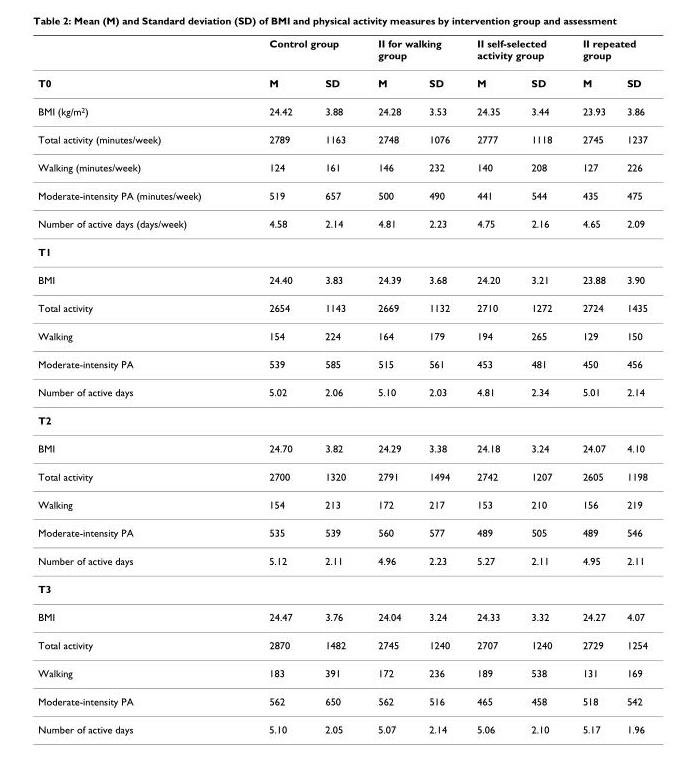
<table><thead><tr><td rowspan="2">T0</td><td colspan="2">Control group</td><td colspan="2">II for walking group</td><td colspan="2">II self-selected activity group</td><td colspan="2">II repeated group</td></tr><tr><td>M</td><td>SD</td><td>M</td><td>SD</td><td>M</td><td>SD</td><td>M</td><td>SD</td></tr></thead><tbody><tr><td>BMI (kg/m<sup>2</sup>)</td><td>24.42</td><td>3.88</td><td>24.28</td><td>3.53</td><td>24.35</td><td>3.44</td><td>23.93</td><td>3.86</td></tr><tr><td>Total activity (minutes/week)</td><td>2789</td><td>1163</td><td>2748</td><td>1076</td><td>2777</td><td>1118</td><td>2745</td><td>1237</td></tr><tr><td>Walking (minutes/week)</td><td>124</td><td>161</td><td>146</td><td>232</td><td>140</td><td>208</td><td>127</td><td>226</td></tr><tr><td>Moderate-intensity PA (minutes/week)</td><td>519</td><td>657</td><td>500</td><td>490</td><td>441</td><td>544</td><td>435</td><td>475</td></tr><tr><td>Number of active days (days/week)</td><td>4.58</td><td>2.14</td><td>4.81</td><td>2.23</td><td>4.75</td><td>2.16</td><td>4.65</td><td>2.09</td></tr><tr><td colspan="9">T1</td></tr><tr><td>BMI</td><td>24.40</td><td>3.83</td><td>24.39</td><td>3.68</td><td>24.20</td><td>3.21</td><td>23.88</td><td>3.90</td></tr><tr><td>Total activity</td><td>2654</td><td>1143</td><td>2669</td><td>1132</td><td>2710</td><td>1272</td><td>2724</td><td>1435</td></tr><tr><td>Walking</td><td>154</td><td>224</td><td>164</td><td>179</td><td>194</td><td>265</td><td>129</td><td>150</td></tr><tr><td>Moderate-intensity PA</td><td>539</td><td>585</td><td>515</td><td>561</td><td>453</td><td>481</td><td>450</td><td>456</td></tr><tr><td>Number of active days</td><td>5.02</td><td>2.06</td><td>5.10</td><td>2.03</td><td>4.81</td><td>2.34</td><td>5.01</td><td>2.14</td></tr><tr><td colspan="9">T2</td></tr><tr><td>BMI</td><td>24.70</td><td>3.82</td><td>24.29</td><td>3.38</td><td>24.18</td><td>3.24</td><td>24.07</td><td>4.10</td></tr><tr><td>Total activity</td><td>2700</td><td>1320</td><td>2791</td><td>1494</td><td>2742</td><td>1207</td><td>2605</td><td>1198</td></tr><tr><td>Walking</td><td>154</td><td>213</td><td>172</td><td>217</td><td>153</td><td>210</td><td>156</td><td>219</td></tr><tr><td>Moderate-intensity PA</td><td>535</td><td>539</td><td>560</td><td>577</td><td>489</td><td>505</td><td>489</td><td>546</td></tr><tr><td>Number of active days</td><td>5.12</td><td>2.11</td><td>4.96</td><td>2.23</td><td>5.27</td><td>2.11</td><td>4.95</td><td>2.11</td></tr><tr><td colspan="9">T3</td></tr><tr><td>BMI</td><td>24.47</td><td>3.76</td><td>24.04</td><td>3.24</td><td>24.33</td><td>3.32</td><td>24.27</td><td>4.07</td></tr><tr><td>Total activity</td><td>2870</td><td>1482</td><td>2745</td><td>1240</td><td>2707</td><td>1240</td><td>2729</td><td>1254</td></tr><tr><td>Walking</td><td>183</td><td>391</td><td>172</td><td>236</td><td>189</td><td>538</td><td>131</td><td>169</td></tr><tr><td>Moderate-intensity PA</td><td>562</td><td>650</td><td>562</td><td>516</td><td>465</td><td>458</td><td>518</td><td>542</td></tr><tr><td>Number of active days</td><td>5.10</td><td>2.05</td><td>5.07</td><td>2.14</td><td>5.06</td><td>2.10</td><td>5.17</td><td>1.96</td></tr></tbody></table>